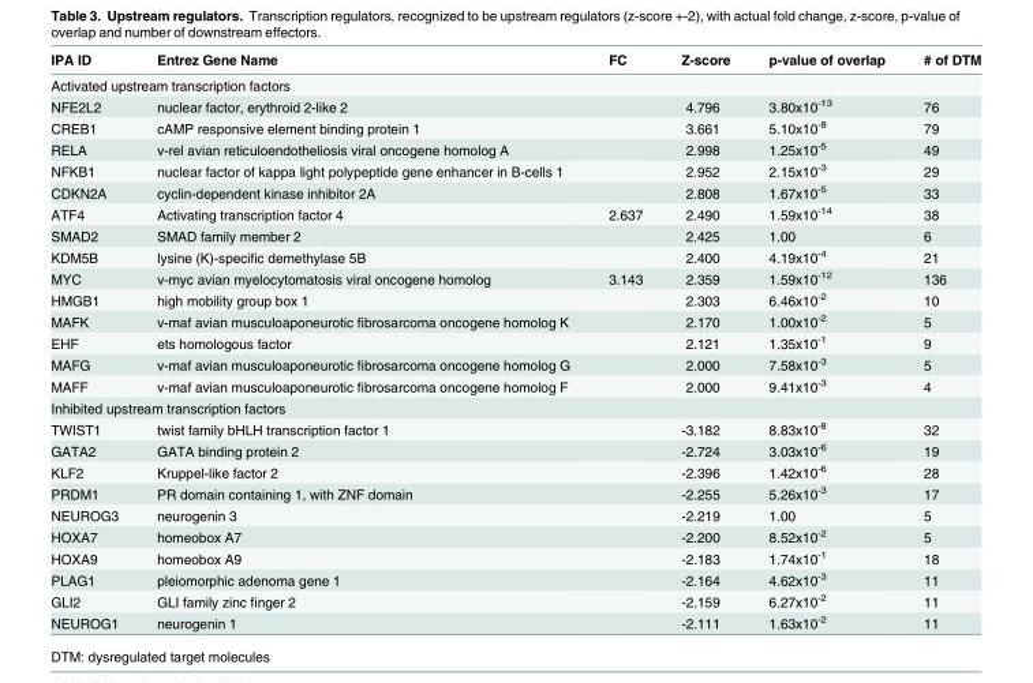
<table><thead><tr><td>IPA ID</td><td>Entrez Gene Name</td><td>FC</td><td>Z-score</td><td>p-value of overlap</td><td># of DTM</td></tr></thead><tbody><tr><td colspan="6">Activated upstream transcription factors</td></tr><tr><td>NFE2L2</td><td>nuclear factor, erythroid 2-like 2</td><td></td><td>4.796</td><td>3.80x10<sup>-13</sup></td><td>76</td></tr><tr><td>CREB1</td><td>cAMP responsive element binding protein 1</td><td></td><td>3.661</td><td>5.10x10<sup>-8</sup></td><td>79</td></tr><tr><td>RELA</td><td>v-rel avian reticuloendotheliosis viral oncogene homolog A</td><td></td><td>2.998</td><td>1.25x10<sup>-5</sup></td><td>49</td></tr><tr><td>NFKB1</td><td>nuclear factor of kappa light polypeptide gene enhancer in B-cells 1</td><td></td><td>2.952</td><td>2.15x10<sup>-3</sup></td><td>29</td></tr><tr><td>CDKN2A</td><td>cyclin-dependent kinase inhibitor 2A</td><td></td><td>2.808</td><td>1.67x10<sup>-5</sup></td><td>33</td></tr><tr><td>ATF4</td><td>Activating transcription factor 4</td><td>2.637</td><td>2.490</td><td>1.59x10<sup>-14</sup></td><td>38</td></tr><tr><td>SMAD2</td><td>SMAD family member 2</td><td></td><td>2.425</td><td>1.00</td><td>6</td></tr><tr><td>KDM5B</td><td>lysine (K)-specific demethylase 5B</td><td></td><td>2.400</td><td>4.19x10<sup>-4</sup></td><td>21</td></tr><tr><td>MYC</td><td>v-myc avian myelocytomatosis viral oncogene homolog</td><td>3.143</td><td>2.359</td><td>1.59x10<sup>-12</sup></td><td>136</td></tr><tr><td>HMGB1</td><td>high mobility group box 1</td><td></td><td>2.303</td><td>6.46x10<sup>-2</sup></td><td>10</td></tr><tr><td>MAFK</td><td>v-maf avian musculoaponeurotic fibrosarcoma oncogene homolog K</td><td></td><td>2.170</td><td>1.00x10<sup>-2</sup></td><td>5</td></tr><tr><td>EHF</td><td>ets homologous factor</td><td></td><td>2.121</td><td>1.35x10<sup>-1</sup></td><td>9</td></tr><tr><td>MAFG</td><td>v-maf avian musculoaponeurotic fibrosarcoma oncogene homolog G</td><td></td><td>2.000</td><td>7.58x10<sup>-3</sup></td><td>5</td></tr><tr><td>MAFF</td><td>v-maf avian musculoaponeurotic fibrosarcoma oncogene homolog F</td><td></td><td>2.000</td><td>9.41x10<sup>-3</sup></td><td>4</td></tr><tr><td colspan="6">Inhibited upstream transcription factors</td></tr><tr><td>TWIST1</td><td>twist family bHLH transcription factor 1</td><td></td><td>-3.182</td><td>8.83x10<sup>-8</sup></td><td>32</td></tr><tr><td>GATA2</td><td>GATA binding protein 2</td><td></td><td>-2.724</td><td>3.03x10<sup>-6</sup></td><td>19</td></tr><tr><td>KLF2</td><td>Kruppel-like factor 2</td><td></td><td>-2.396</td><td>1.42x10<sup>-6</sup></td><td>28</td></tr><tr><td>PRDM1</td><td>PR domain containing 1, with ZNF domain</td><td></td><td>-2.255</td><td>5.26x10<sup>-3</sup></td><td>17</td></tr><tr><td>NEUROG3</td><td>neurogenin 3</td><td></td><td>-2.219</td><td>1.00</td><td>5</td></tr><tr><td>HOXA7</td><td>homeobox A7</td><td></td><td>-2.200</td><td>8.52x10<sup>-2</sup></td><td>5</td></tr><tr><td>HOXA9</td><td>homeobox A9</td><td></td><td>-2.183</td><td>1.74x10<sup>-1</sup></td><td>18</td></tr><tr><td>PLAG1</td><td>pleiomorphic adenoma gene 1</td><td></td><td>-2.164</td><td>4.62x10<sup>-3</sup></td><td>11</td></tr><tr><td>GLI2</td><td>GLI family zinc finger 2</td><td></td><td>-2.159</td><td>6.27x10<sup>-2</sup></td><td>11</td></tr><tr><td>NEUROG1</td><td>neurogenin 1</td><td></td><td>-2.111</td><td>1.63x10<sup>-2</sup></td><td>11</td></tr></tbody></table>